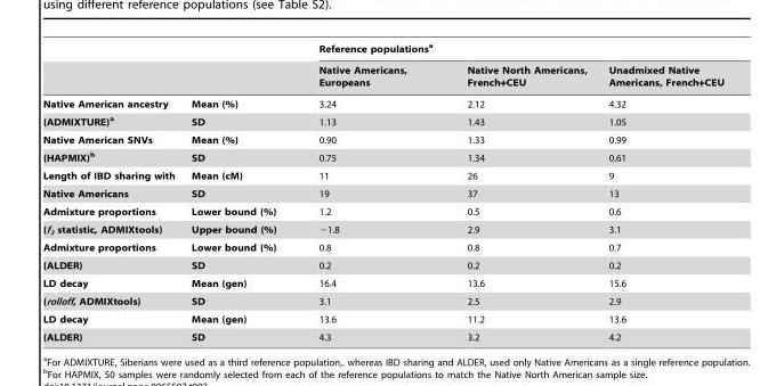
<table><thead><tr><td rowspan="2"></td><td rowspan="2"></td><td colspan="3">Reference populations<sup>a</sup></td></tr><tr><td>Native Americans, Europeans</td><td>Native North Americans, French+CEU</td><td>Unadmixed Native Americans, French+CEU</td></tr></thead><tbody><tr><td>Native American ancestry</td><td>Mean (%)</td><td>3.24</td><td>2.12</td><td>4.32</td></tr><tr><td>(ADMIXTURE)a</td><td>SD</td><td>1.13</td><td>1.43</td><td>1.05</td></tr><tr><td>Native American SNVs</td><td>Mean (%)</td><td>0.90</td><td>1.33</td><td>0.99</td></tr><tr><td>(HAPMIX)b</td><td>SD</td><td>0.75</td><td>1.34</td><td>0.61</td></tr><tr><td>Length of IBD sharing with</td><td>Mean (cM)</td><td>11</td><td>26</td><td>9</td></tr><tr><td>Native Americans</td><td>SD</td><td>19</td><td>37</td><td>13</td></tr><tr><td>Admixture proportions</td><td>Lower bound (%)</td><td>1.2</td><td>0.5</td><td>0.6</td></tr><tr><td>(f<sub>3</sub> statistic, ADMIXtools)</td><td>Upper bound (%)</td><td>−1.8</td><td>2.9</td><td>3.1</td></tr><tr><td>Admixture proportions</td><td>Lower bound (%)</td><td>0.8</td><td>0.8</td><td>0.7</td></tr><tr><td>(ALDER)</td><td>SD</td><td>0.2</td><td>0.2</td><td>0.2</td></tr><tr><td>LD decay</td><td>Mean (gen)</td><td>16.4</td><td>13.6</td><td>15.6</td></tr><tr><td>(rolloff, ADMIXtools)</td><td>SD</td><td>3.1</td><td>2.5</td><td>2.9</td></tr><tr><td>LD decay</td><td>Mean (gen)</td><td>13.6</td><td>11.2</td><td>13.6</td></tr><tr><td>(ALDER)</td><td>SD</td><td>4.3</td><td>3.2</td><td>4.2</td></tr></tbody></table>